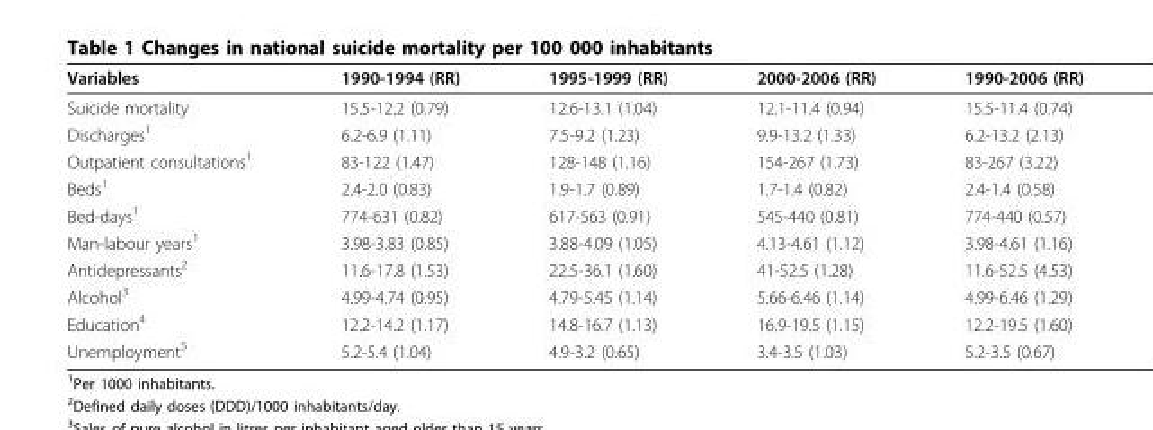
<table><thead><tr><td>Variables</td><td>1990-1994 (RR)</td><td>1995-1999 (RR)</td><td>2000-2006 (RR)</td><td>1990-2006 (RR)</td></tr></thead><tbody><tr><td>Suicide mortality</td><td>15.5-12.2 (0.79)</td><td>12.6-13.1 (1.04)</td><td>12.1-11.4 (0.94)</td><td>15.5-11.4 (0.74)</td></tr><tr><td>Discharges<sup>1</sup></td><td>6.2-6.9 (1.11)</td><td>7.5-9.2 (1.23)</td><td>9.9-13.2 (1.33)</td><td>6.2-13.2 (2.13)</td></tr><tr><td>Outpatient consultations<sup>1</sup></td><td>83-122 (1.47)</td><td>128-148 (1.16)</td><td>154-267 (1.73)</td><td>83-267 (3.22)</td></tr><tr><td>Beds<sup>1</sup></td><td>2.4-2.0 (0.83)</td><td>1.9-1.7 (0.89)</td><td>1.7-1.4 (0.82)</td><td>2.4-1.4 (0.58)</td></tr><tr><td>Bed-days<sup>1</sup></td><td>774-631 (0.82)</td><td>617-563 (0.91)</td><td>545-440 (0.81)</td><td>774-440 (0.57)</td></tr><tr><td>Man-labour years<sup>1</sup></td><td>3.98-3.83 (0.85)</td><td>3.88-4.09 (1.05)</td><td>4.13-4.61 (1.12)</td><td>3.98-4.61 (1.16)</td></tr><tr><td>Antidepressants<sup>2</sup></td><td>11.6-17.8 (1.53)</td><td>22.5-36.1 (1.60)</td><td>41-52.5 (1.28)</td><td>11.6-52.5 (4.53)</td></tr><tr><td>Alcohol<sup>3</sup></td><td>4.99-4.74 (0.95)</td><td>4.79-5.45 (1.14)</td><td>5.66-6.46 (1.14)</td><td>4.99-6.46 (1.29)</td></tr><tr><td>Education<sup>4</sup></td><td>12.2-14.2 (1.17)</td><td>14.8-16.7 (1.13)</td><td>16.9-19.5 (1.15)</td><td>12.2-19.5 (1.60)</td></tr><tr><td>Unemployment<sup>5</sup></td><td>5.2-5.4 (1.04)</td><td>4.9-3.2 (0.65)</td><td>3.4-3.5 (1.03)</td><td>5.2-3.5 (0.67)</td></tr></tbody></table>